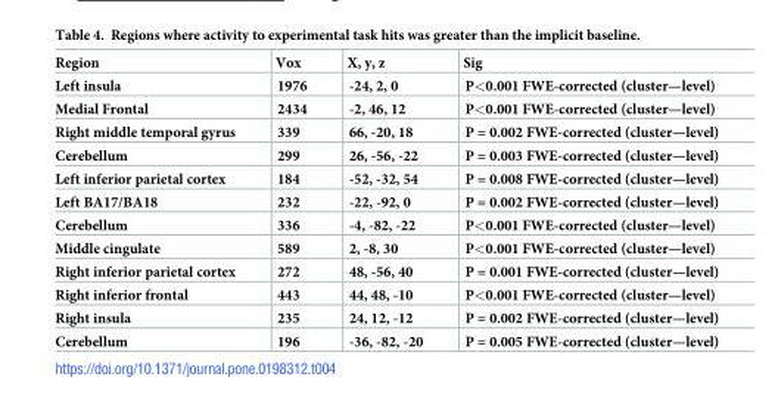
<table><thead><tr><td>Region</td><td>Vox</td><td>X, y, z</td><td>Sig</td></tr></thead><tbody><tr><td>Left insula</td><td>1976</td><td>-24, 2, 0</td><td>P&lt;0.001 FWE-corrected (cluster—level)</td></tr><tr><td>Medial Frontal</td><td>2434</td><td>-2, 46, 12</td><td>P&lt;0.001 FWE-corrected (cluster—level)</td></tr><tr><td>Right middle temporal gyrus</td><td>339</td><td>66, -20, 18</td><td>P = 0.002 FWE-corrected (cluster—level)</td></tr><tr><td>Cerebellum</td><td>299</td><td>26, -56, -22</td><td>P = 0.003 FWE-corrected (cluster—level)</td></tr><tr><td>Left inferior parietal cortex</td><td>184</td><td>-52, -32, 54</td><td>P = 0.008 FWE-corrected (cluster—level)</td></tr><tr><td>Left BA17/BA18</td><td>232</td><td>-22, -92, 0</td><td>P = 0.002 FWE-corrected (cluster—level)</td></tr><tr><td>Cerebellum</td><td>336</td><td>-4, -82, -22</td><td>P&lt;0.001 FWE-corrected (cluster—level)</td></tr><tr><td>Middle cingulate</td><td>589</td><td>2, -8, 30</td><td>P&lt;0.001 FWE-corrected (cluster—level)</td></tr><tr><td>Right inferior parietal cortex</td><td>272</td><td>48, -56, 40</td><td>P = 0.001 FWE-corrected (cluster—level)</td></tr><tr><td>Right inferior frontal</td><td>443</td><td>44, 48, -10</td><td>P&lt;0.001 FWE-corrected (cluster—level)</td></tr><tr><td>Right insula</td><td>235</td><td>24, 12, -12</td><td>P = 0.002 FWE-corrected (cluster—level)</td></tr><tr><td>Cerebellum</td><td>196</td><td>-36, -82, -20</td><td>P = 0.005 FWE-corrected (cluster—level)</td></tr></tbody></table>